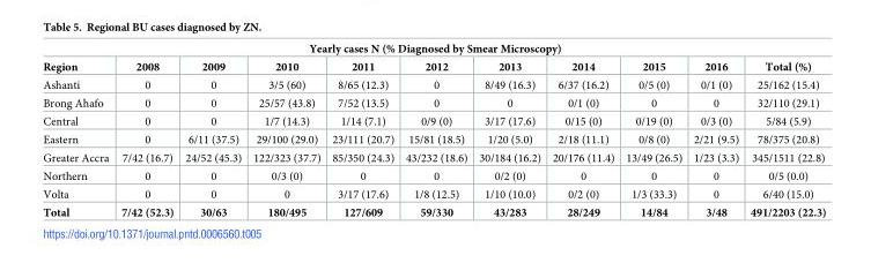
<table><thead><tr><td colspan="11">Yearly cases N (% Diagnosed by Smear Microscopy)</td></tr><tr><td>Region</td><td>2008</td><td>2009</td><td>2010</td><td>2011</td><td>2012</td><td>2013</td><td>2014</td><td>2015</td><td>2016</td><td>Total (%)</td></tr></thead><tbody><tr><td>Ashanti</td><td>0</td><td>0</td><td>3/5 (60)</td><td>8/65 (12.3)</td><td>0</td><td>8/49 (16.3)</td><td>6/37 (16.2)</td><td>0/5 (0)</td><td>0/1 (0)</td><td>25/162 (15.4)</td></tr><tr><td>Brong Ahafo</td><td>0</td><td>0</td><td>25/57 (43.8)</td><td>7/52 (13.5)</td><td>0</td><td>0</td><td>0/1 (0)</td><td>0</td><td>0</td><td>32/110 (29.1)</td></tr><tr><td>Central</td><td>0</td><td>0</td><td>1/7 (14.3)</td><td>1/14 (7.1)</td><td>0/9 (0)</td><td>3/17 (17.6)</td><td>0/15 (0)</td><td>0/19 (0)</td><td>0/3 (0)</td><td>5/84 (5.9)</td></tr><tr><td>Eastern</td><td>0</td><td>6/11 (37.5)</td><td>29/100 (29.0)</td><td>23/111 (20.7)</td><td>15/81 (18.5)</td><td>1/20 (5.0)</td><td>2/18 (11.1)</td><td>0/8 (0)</td><td>2/21 (9.5)</td><td>78/375 (20.8)</td></tr><tr><td>Greater Accra</td><td>7/42 (16.7)</td><td>24/52 (45.3)</td><td>122/323 (37.7)</td><td>85/350 (24.3)</td><td>43/232 (18.6)</td><td>30/184 (16.2)</td><td>20/176 (11.4)</td><td>13/49 (26.5)</td><td>1/23 (3.3)</td><td>345/1511 (22.8)</td></tr><tr><td>Northern</td><td>0</td><td>0</td><td>0/3 (0)</td><td>0</td><td>0</td><td>0/2 (0)</td><td>0</td><td>0</td><td>0</td><td>0/5 (0.0)</td></tr><tr><td>Volta</td><td>0</td><td>0</td><td>0</td><td>3/17 (17.6)</td><td>1/8 (12.5)</td><td>1/10 (10.0)</td><td>0/2 (0)</td><td>1/3 (33.3)</td><td>0</td><td>6/40 (15.0)</td></tr><tr><td>Total</td><td>7/42 (52.3)</td><td>30/63</td><td>180/495</td><td>127/609</td><td>59/330</td><td>43/283</td><td>28/249</td><td>14/84</td><td>3/48</td><td>491/2203 (22.3)</td></tr></tbody></table>